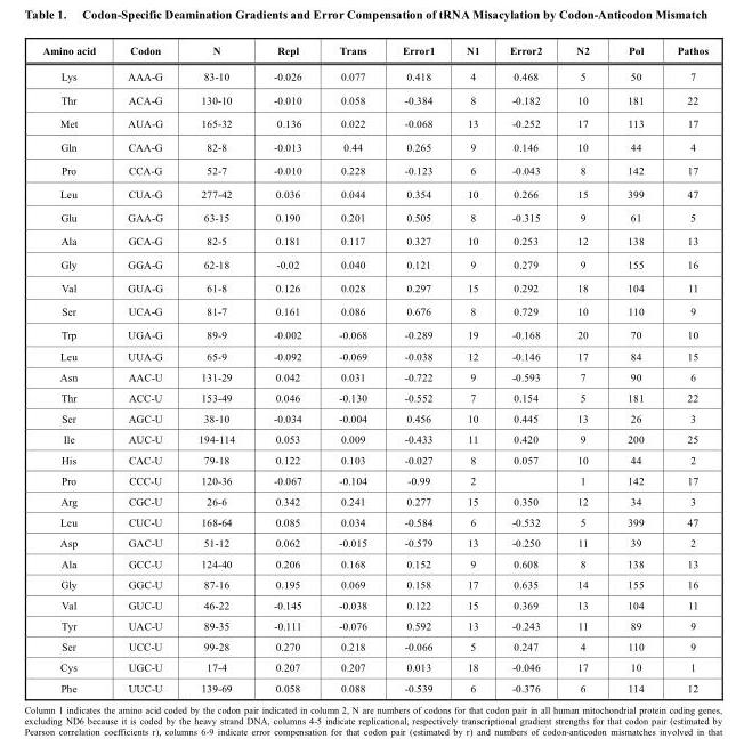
<table><thead><tr><td>Amino acid</td><td>Codon</td><td>N</td><td>Repl</td><td>Trans</td><td>Error1</td><td>N1</td><td>Error2</td><td>N2</td><td>Pol</td><td>Pathos</td></tr></thead><tbody><tr><td>Lys</td><td>AAA-G</td><td>83-10</td><td>-0.026</td><td>0.077</td><td>0.418</td><td>4</td><td>0.468</td><td>5</td><td>50</td><td>7</td></tr><tr><td>Thr</td><td>ACA-G</td><td>130-10</td><td>-0.010</td><td>0.058</td><td>-0.384</td><td>8</td><td>-0.182</td><td>10</td><td>181</td><td>22</td></tr><tr><td>Met</td><td>AUA-G</td><td>165-32</td><td>0.136</td><td>0.022</td><td>-0.068</td><td>13</td><td>-0.252</td><td>17</td><td>113</td><td>17</td></tr><tr><td>Gln</td><td>CAA-G</td><td>82-8</td><td>-0.013</td><td>0.44</td><td>0.265</td><td>9</td><td>0.146</td><td>10</td><td>44</td><td>4</td></tr><tr><td>Pro</td><td>CCA-G</td><td>52-7</td><td>-0.010</td><td>0.228</td><td>-0.123</td><td>6</td><td>-0.043</td><td>8</td><td>142</td><td>17</td></tr><tr><td>Leu</td><td>CUA-G</td><td>277-42</td><td>0.036</td><td>0.044</td><td>0.354</td><td>10</td><td>0.266</td><td>15</td><td>399</td><td>47</td></tr><tr><td>Glu</td><td>GAA-G</td><td>63-15</td><td>0.190</td><td>0.201</td><td>0.505</td><td>8</td><td>-0.315</td><td>9</td><td>61</td><td>5</td></tr><tr><td>Ala</td><td>GCA-G</td><td>82-5</td><td>0.181</td><td>0.117</td><td>0.327</td><td>10</td><td>0.253</td><td>12</td><td>138</td><td>13</td></tr><tr><td>Gly</td><td>GGA-G</td><td>62-18</td><td>-0.02</td><td>0.040</td><td>0.121</td><td>9</td><td>0.279</td><td>9</td><td>155</td><td>16</td></tr><tr><td>Val</td><td>GUA-G</td><td>61-8</td><td>0.126</td><td>0.028</td><td>0.297</td><td>15</td><td>0.292</td><td>18</td><td>104</td><td>11</td></tr><tr><td>Ser</td><td>UCA-G</td><td>81-7</td><td>0.161</td><td>0.086</td><td>0.676</td><td>8</td><td>0.729</td><td>10</td><td>110</td><td>9</td></tr><tr><td>Trp</td><td>UGA-G</td><td>89-9</td><td>-0.002</td><td>-0.068</td><td>-0.289</td><td>19</td><td>-0.168</td><td>20</td><td>70</td><td>10</td></tr><tr><td>Leu</td><td>UUA-G</td><td>65-9</td><td>-0.092</td><td>-0.069</td><td>-0.038</td><td>12</td><td>-0.146</td><td>17</td><td>84</td><td>15</td></tr><tr><td>Asn</td><td>AAC-U</td><td>131-29</td><td>0.042</td><td>0.031</td><td>-0.722</td><td>9</td><td>-0.593</td><td>7</td><td>90</td><td>6</td></tr><tr><td>Thr</td><td>ACC-U</td><td>153-49</td><td>0.046</td><td>-0.130</td><td>-0.552</td><td>7</td><td>0.154</td><td>5</td><td>181</td><td>22</td></tr><tr><td>Ser</td><td>AGC-U</td><td>38-10</td><td>-0.034</td><td>-0.004</td><td>0.456</td><td>10</td><td>0.445</td><td>13</td><td>26</td><td>3</td></tr><tr><td>Ile</td><td>AUC-U</td><td>194-114</td><td>0.053</td><td>0.009</td><td>-0.433</td><td>11</td><td>0.420</td><td>9</td><td>200</td><td>25</td></tr><tr><td>His</td><td>CAC-U</td><td>79-18</td><td>0.122</td><td>0.103</td><td>-0.027</td><td>8</td><td>0.057</td><td>10</td><td>44</td><td>2</td></tr><tr><td>Pro</td><td>CCC-U</td><td>120-36</td><td>-0.067</td><td>-0.104</td><td>-0.99</td><td>2</td><td></td><td>1</td><td>142</td><td>17</td></tr><tr><td>Arg</td><td>CGC-U</td><td>26-6</td><td>0.342</td><td>0.241</td><td>0.277</td><td>15</td><td>0.350</td><td>12</td><td>34</td><td>3</td></tr><tr><td>Leu</td><td>CUC-U</td><td>168-64</td><td>0.085</td><td>0.034</td><td>-0.584</td><td>6</td><td>-0.532</td><td>5</td><td>399</td><td>47</td></tr><tr><td>Asp</td><td>GAC-U</td><td>51-12</td><td>0.062</td><td>-0.015</td><td>-0.579</td><td>13</td><td>-0.250</td><td>11</td><td>39</td><td>2</td></tr><tr><td>Ala</td><td>GCC-U</td><td>124-40</td><td>0.206</td><td>0.168</td><td>0.152</td><td>9</td><td>0.608</td><td>8</td><td>138</td><td>13</td></tr><tr><td>Gly</td><td>GGC-U</td><td>87-16</td><td>0.195</td><td>0.069</td><td>0.158</td><td>17</td><td>0.635</td><td>14</td><td>155</td><td>16</td></tr><tr><td>Val</td><td>GUC-U</td><td>46-22</td><td>-0.145</td><td>-0.038</td><td>0.122</td><td>15</td><td>0.369</td><td>13</td><td>104</td><td>11</td></tr><tr><td>Tyr</td><td>UAC-U</td><td>89-35</td><td>-0.111</td><td>-0.076</td><td>0.592</td><td>13</td><td>-0.243</td><td>11</td><td>89</td><td>9</td></tr><tr><td>Ser</td><td>UCC-U</td><td>99-28</td><td>0.270</td><td>0.218</td><td>-0.066</td><td>5</td><td>0.247</td><td>4</td><td>110</td><td>9</td></tr><tr><td>Cys</td><td>UGC-U</td><td>17-4</td><td>0.207</td><td>0.207</td><td>0.013</td><td>18</td><td>-0.046</td><td>17</td><td>10</td><td>1</td></tr><tr><td>Phe</td><td>UUC-U</td><td>139-69</td><td>0.058</td><td>0.088</td><td>-0.539</td><td>6</td><td>-0.376</td><td>6</td><td>114</td><td>12</td></tr></tbody></table>